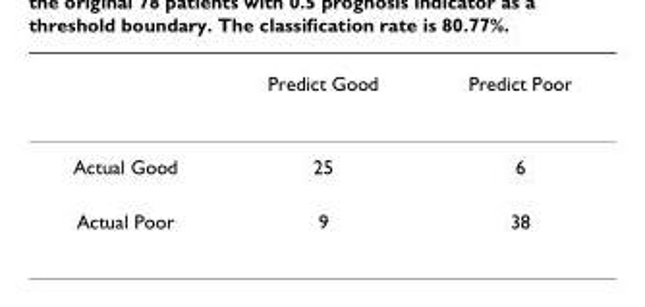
<table><thead><tr><td></td><td>Predict Good</td><td>Predict Poor</td></tr></thead><tbody><tr><td>Actual Good</td><td>25</td><td>6</td></tr><tr><td>Actual Poor</td><td>9</td><td>38</td></tr></tbody></table>